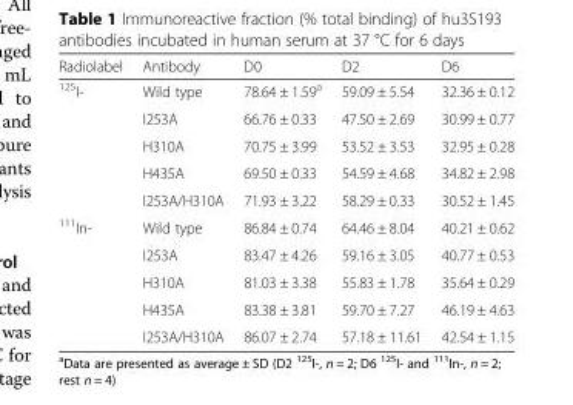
<table><thead><tr><td>Radiolabel</td><td>Antibody</td><td>D0</td><td>D2</td><td>D6</td></tr></thead><tbody><tr><td rowspan="5"><sup>125</sup>I-</td><td>Wild type</td><td>78.64 ± 1.59<sup>a</sup></td><td>59.09 ± 5.54</td><td>32.36 ± 0.12</td></tr><tr><td>I253A</td><td>66.76 ± 0.33</td><td>47.50 ± 2.69</td><td>30.99 ± 0.77</td></tr><tr><td>H310A</td><td>70.75 ± 3.99</td><td>53.52 ± 3.53</td><td>32.95 ± 0.28</td></tr><tr><td>H435A</td><td>69.50 ± 0.33</td><td>54.59 ± 4.68</td><td>34.82 ± 2.98</td></tr><tr><td>I253A/H310A</td><td>71.93 ± 3.22</td><td>58.29 ± 0.33</td><td>30.52 ± 1.45</td></tr><tr><td rowspan="5"><sup>111</sup>In-</td><td>Wild type</td><td>86.84 ± 0.74</td><td>64.46 ± 8.04</td><td>40.21 ± 0.62</td></tr><tr><td>I253A</td><td>83.47 ± 4.26</td><td>59.16 ± 3.05</td><td>40.77 ± 0.53</td></tr><tr><td>H310A</td><td>81.03 ± 3.38</td><td>55.83 ± 1.78</td><td>35.64 ± 0.29</td></tr><tr><td>H435A</td><td>83.38 ± 3.81</td><td>59.70 ± 7.27</td><td>46.19 ± 4.63</td></tr><tr><td>I253A/H310A</td><td>86.07 ± 2.74</td><td>57.18 ± 11.61</td><td>42.54 ± 1.15</td></tr></tbody></table>